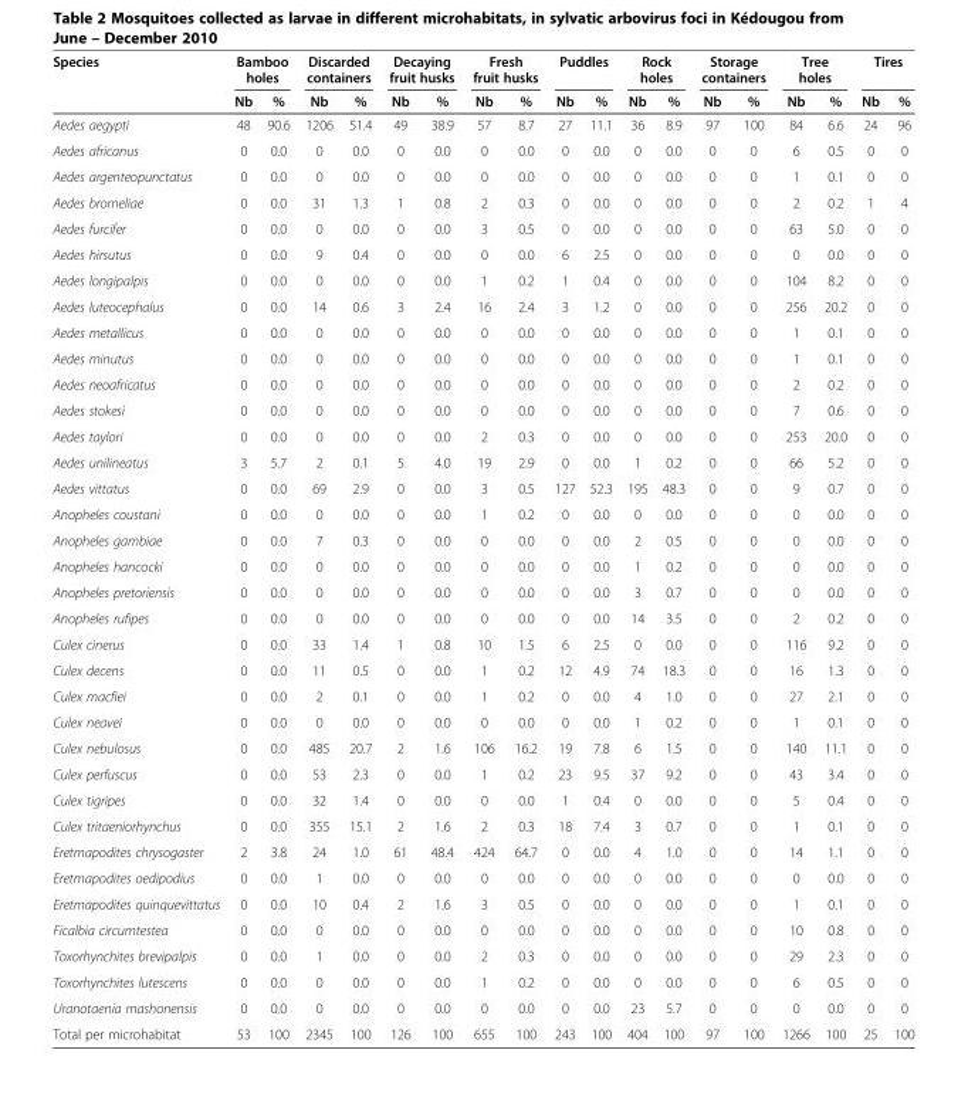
<table><thead><tr><td rowspan="2">Species</td><td colspan="2">Bamboo holes</td><td colspan="2">Discarded containers</td><td colspan="2">Decaying fruit husks</td><td colspan="2">Fresh fruit husks</td><td colspan="2">Puddles</td><td colspan="2">Rock holes</td><td colspan="2">Storage containers</td><td colspan="2">Tree holes</td><td colspan="2">Tires</td></tr><tr><td>Nb</td><td>%</td><td>Nb</td><td>%</td><td>Nb</td><td>%</td><td>Nb</td><td>%</td><td>Nb</td><td>%</td><td>Nb</td><td>%</td><td>Nb</td><td>%</td><td>Nb</td><td>%</td><td>Nb</td><td>%</td></tr></thead><tbody><tr><td>Aedes aegypti</td><td>48</td><td>90.6</td><td>1206</td><td>51.4</td><td>49</td><td>38.9</td><td>57</td><td>8.7</td><td>27</td><td>11.1</td><td>36</td><td>8.9</td><td>97</td><td>100</td><td>84</td><td>6.6</td><td>24</td><td>96</td></tr><tr><td>Aedes africanus</td><td>0</td><td>0.0</td><td>0</td><td>0.0</td><td>0</td><td>0.0</td><td>0</td><td>0.0</td><td>0</td><td>0.0</td><td>0</td><td>0.0</td><td>0</td><td>0</td><td>6</td><td>0.5</td><td>0</td><td>0</td></tr><tr><td>Aedes argenteopunctatus</td><td>0</td><td>0.0</td><td>0</td><td>0.0</td><td>0</td><td>0.0</td><td>0</td><td>0.0</td><td>0</td><td>0.0</td><td>0</td><td>0.0</td><td>0</td><td>0</td><td>1</td><td>0.1</td><td>0</td><td>0</td></tr><tr><td>Aedes bromeliae</td><td>0</td><td>0.0</td><td>31</td><td>1.3</td><td>1</td><td>0.8</td><td>2</td><td>0.3</td><td>0</td><td>0.0</td><td>0</td><td>0.0</td><td>0</td><td>0</td><td>2</td><td>0.2</td><td>1</td><td>4</td></tr><tr><td>Aedes furcifer</td><td>0</td><td>0.0</td><td>0</td><td>0.0</td><td>0</td><td>0.0</td><td>3</td><td>0.5</td><td>0</td><td>0.0</td><td>0</td><td>0.0</td><td>0</td><td>0</td><td>63</td><td>5.0</td><td>0</td><td>0</td></tr><tr><td>Aedes hirsutus</td><td>0</td><td>0.0</td><td>9</td><td>0.4</td><td>0</td><td>0.0</td><td>0</td><td>0.0</td><td>6</td><td>2.5</td><td>0</td><td>0.0</td><td>0</td><td>0</td><td>0</td><td>0.0</td><td>0</td><td>0</td></tr><tr><td>Aedes longipalpis</td><td>0</td><td>0.0</td><td>0</td><td>0.0</td><td>0</td><td>0.0</td><td>1</td><td>0.2</td><td>1</td><td>0.4</td><td>0</td><td>0.0</td><td>0</td><td>0</td><td>104</td><td>8.2</td><td>0</td><td>0</td></tr><tr><td>Aedes luteocephalus</td><td>0</td><td>0.0</td><td>14</td><td>0.6</td><td>3</td><td>2.4</td><td>16</td><td>2.4</td><td>3</td><td>1.2</td><td>0</td><td>0.0</td><td>0</td><td>0</td><td>256</td><td>20.2</td><td>0</td><td>0</td></tr><tr><td>Aedes metallicus</td><td>0</td><td>0.0</td><td>0</td><td>0.0</td><td>0</td><td>0.0</td><td>0</td><td>0.0</td><td>0</td><td>0.0</td><td>0</td><td>0.0</td><td>0</td><td>0</td><td>1</td><td>0.1</td><td>0</td><td>0</td></tr><tr><td>Aedes minutus</td><td>0</td><td>0.0</td><td>0</td><td>0.0</td><td>0</td><td>0.0</td><td>0</td><td>0.0</td><td>0</td><td>0.0</td><td>0</td><td>0.0</td><td>0</td><td>0</td><td>1</td><td>0.1</td><td>0</td><td>0</td></tr><tr><td>Aedes neoafricatus</td><td>0</td><td>0.0</td><td>0</td><td>0.0</td><td>0</td><td>0.0</td><td>0</td><td>0.0</td><td>0</td><td>0.0</td><td>0</td><td>0.0</td><td>0</td><td>0</td><td>2</td><td>0.2</td><td>0</td><td>0</td></tr><tr><td>Aedes stokesi</td><td>0</td><td>0.0</td><td>0</td><td>0.0</td><td>0</td><td>0.0</td><td>0</td><td>0.0</td><td>0</td><td>0.0</td><td>0</td><td>0.0</td><td>0</td><td>0</td><td>7</td><td>0.6</td><td>0</td><td>0</td></tr><tr><td>Aedes taylori</td><td>0</td><td>0.0</td><td>0</td><td>0.0</td><td>0</td><td>0.0</td><td>2</td><td>0.3</td><td>0</td><td>0.0</td><td>0</td><td>0.0</td><td>0</td><td>0</td><td>253</td><td>20.0</td><td>0</td><td>0</td></tr><tr><td>Aedes unilineatus</td><td>3</td><td>5.7</td><td>2</td><td>0.1</td><td>5</td><td>4.0</td><td>19</td><td>2.9</td><td>0</td><td>0.0</td><td>1</td><td>0.2</td><td>0</td><td>0</td><td>66</td><td>5.2</td><td>0</td><td>0</td></tr><tr><td>Aedes vittatus</td><td>0</td><td>0.0</td><td>69</td><td>2.9</td><td>0</td><td>0.0</td><td>3</td><td>0.5</td><td>127</td><td>52.3</td><td>195</td><td>48.3</td><td>0</td><td>0</td><td>9</td><td>0.7</td><td>0</td><td>0</td></tr><tr><td>Anopheles coustani</td><td>0</td><td>0.0</td><td>0</td><td>0.0</td><td>0</td><td>0.0</td><td>1</td><td>0.2</td><td>0</td><td>0.0</td><td>0</td><td>0.0</td><td>0</td><td>0</td><td>0</td><td>0.0</td><td>0</td><td>0</td></tr><tr><td>Anopheles gambiae</td><td>0</td><td>0.0</td><td>7</td><td>0.3</td><td>0</td><td>0.0</td><td>0</td><td>0.0</td><td>0</td><td>0.0</td><td>2</td><td>0.5</td><td>0</td><td>0</td><td>0</td><td>0.0</td><td>0</td><td>0</td></tr><tr><td>Anopheles hancocki</td><td>0</td><td>0.0</td><td>0</td><td>0.0</td><td>0</td><td>0.0</td><td>0</td><td>0.0</td><td>0</td><td>0.0</td><td>1</td><td>0.2</td><td>0</td><td>0</td><td>0</td><td>0.0</td><td>0</td><td>0</td></tr><tr><td>Anopheles pretoriensis</td><td>0</td><td>0.0</td><td>0</td><td>0.0</td><td>0</td><td>0.0</td><td>0</td><td>0.0</td><td>0</td><td>0.0</td><td>3</td><td>0.7</td><td>0</td><td>0</td><td>0</td><td>0.0</td><td>0</td><td>0</td></tr><tr><td>Anopheles rufipes</td><td>0</td><td>0.0</td><td>0</td><td>0.0</td><td>0</td><td>0.0</td><td>0</td><td>0.0</td><td>0</td><td>0.0</td><td>14</td><td>3.5</td><td>0</td><td>0</td><td>2</td><td>0.2</td><td>0</td><td>0</td></tr><tr><td>Culex cinerus</td><td>0</td><td>0.0</td><td>33</td><td>1.4</td><td>1</td><td>0.8</td><td>10</td><td>1.5</td><td>6</td><td>2.5</td><td>0</td><td>0.0</td><td>0</td><td>0</td><td>116</td><td>9.2</td><td>0</td><td>0</td></tr><tr><td>Culex decens</td><td>0</td><td>0.0</td><td>11</td><td>0.5</td><td>0</td><td>0.0</td><td>1</td><td>0.2</td><td>12</td><td>4.9</td><td>74</td><td>18.3</td><td>0</td><td>0</td><td>16</td><td>1.3</td><td>0</td><td>0</td></tr><tr><td>Culex macfiei</td><td>0</td><td>0.0</td><td>2</td><td>0.1</td><td>0</td><td>0.0</td><td>1</td><td>0.2</td><td>0</td><td>0.0</td><td>4</td><td>1.0</td><td>0</td><td>0</td><td>27</td><td>2.1</td><td>0</td><td>0</td></tr><tr><td>Culex neavei</td><td>0</td><td>0.0</td><td>0</td><td>0.0</td><td>0</td><td>0.0</td><td>0</td><td>0.0</td><td>0</td><td>0.0</td><td>1</td><td>0.2</td><td>0</td><td>0</td><td>1</td><td>0.1</td><td>0</td><td>0</td></tr><tr><td>Culex nebulosus</td><td>0</td><td>0.0</td><td>485</td><td>20.7</td><td>2</td><td>1.6</td><td>106</td><td>16.2</td><td>19</td><td>7.8</td><td>6</td><td>1.5</td><td>0</td><td>0</td><td>140</td><td>11.1</td><td>0</td><td>0</td></tr><tr><td>Culex perfuscus</td><td>0</td><td>0.0</td><td>53</td><td>2.3</td><td>0</td><td>0.0</td><td>1</td><td>0.2</td><td>23</td><td>9.5</td><td>37</td><td>9.2</td><td>0</td><td>0</td><td>43</td><td>3.4</td><td>0</td><td>0</td></tr><tr><td>Culex tigripes</td><td>0</td><td>0.0</td><td>32</td><td>1.4</td><td>0</td><td>0.0</td><td>0</td><td>0.0</td><td>1</td><td>0.4</td><td>0</td><td>0.0</td><td>0</td><td>0</td><td>5</td><td>0.4</td><td>0</td><td>0</td></tr><tr><td>Culex tritaeniorhynchus</td><td>0</td><td>0.0</td><td>355</td><td>15.1</td><td>2</td><td>1.6</td><td>2</td><td>0.3</td><td>18</td><td>7.4</td><td>3</td><td>0.7</td><td>0</td><td>0</td><td>1</td><td>0.1</td><td>0</td><td>0</td></tr><tr><td>Eretmapodites chrysogaster</td><td>2</td><td>3.8</td><td>24</td><td>1.0</td><td>61</td><td>48.4</td><td>424</td><td>64.7</td><td>0</td><td>0.0</td><td>4</td><td>1.0</td><td>0</td><td>0</td><td>14</td><td>1.1</td><td>0</td><td>0</td></tr><tr><td>Eretmapodites oedipodius</td><td>0</td><td>0.0</td><td>1</td><td>0.0</td><td>0</td><td>0.0</td><td>0</td><td>0.0</td><td>0</td><td>0.0</td><td>0</td><td>0.0</td><td>0</td><td>0</td><td>0</td><td>0.0</td><td>0</td><td>0</td></tr><tr><td>Eretmapodites quinquevittatus</td><td>0</td><td>0.0</td><td>10</td><td>0.4</td><td>2</td><td>1.6</td><td>3</td><td>0.5</td><td>0</td><td>0.0</td><td>0</td><td>0.0</td><td>0</td><td>0</td><td>1</td><td>0.1</td><td>0</td><td>0</td></tr><tr><td>Ficalbia circumtestea</td><td>0</td><td>0.0</td><td>0</td><td>0.0</td><td>0</td><td>0.0</td><td>0</td><td>0.0</td><td>0</td><td>0.0</td><td>0</td><td>0.0</td><td>0</td><td>0</td><td>10</td><td>0.8</td><td>0</td><td>0</td></tr><tr><td>Toxorhynchites brevipalpis</td><td>0</td><td>0.0</td><td>1</td><td>0.0</td><td>0</td><td>0.0</td><td>2</td><td>0.3</td><td>0</td><td>0.0</td><td>0</td><td>0.0</td><td>0</td><td>0</td><td>29</td><td>2.3</td><td>0</td><td>0</td></tr><tr><td>Toxorhynchites lutescens</td><td>0</td><td>0.0</td><td>0</td><td>0.0</td><td>0</td><td>0.0</td><td>1</td><td>0.2</td><td>0</td><td>0.0</td><td>0</td><td>0.0</td><td>0</td><td>0</td><td>6</td><td>0.5</td><td>0</td><td>0</td></tr><tr><td>Uranotaenia mashonensis</td><td>0</td><td>0.0</td><td>0</td><td>0.0</td><td>0</td><td>0.0</td><td>0</td><td>0.0</td><td>0</td><td>0.0</td><td>23</td><td>5.7</td><td>0</td><td>0</td><td>0</td><td>0.0</td><td>0</td><td>0</td></tr><tr><td>Total per microhabitat</td><td>53</td><td>100</td><td>2345</td><td>100</td><td>126</td><td>100</td><td>655</td><td>100</td><td>243</td><td>100</td><td>404</td><td>100</td><td>97</td><td>100</td><td>1266</td><td>100</td><td>25</td><td>100</td></tr></tbody></table>